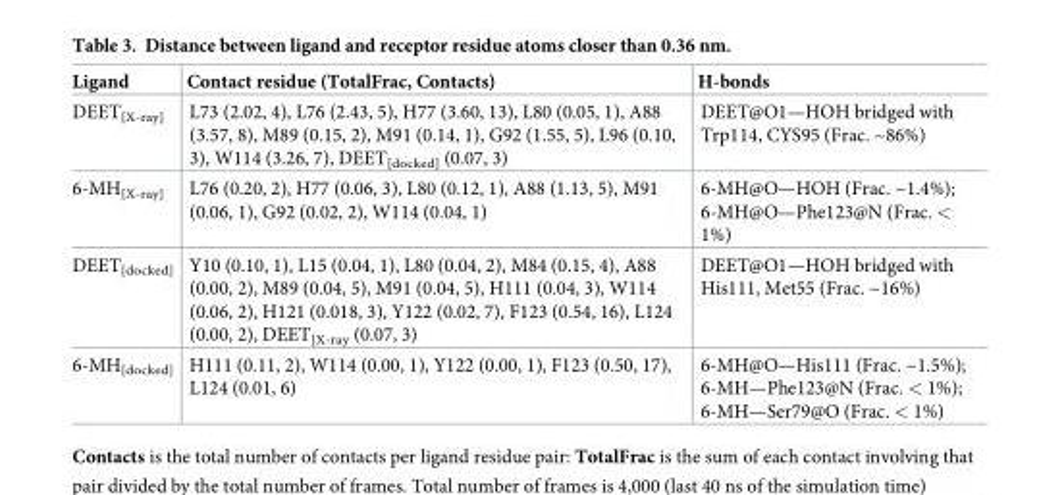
<table><thead><tr><td>Ligand</td><td>Contact residue (TotalFrac, Contacts)</td><td>H-bonds</td></tr></thead><tbody><tr><td>DEET<sub>[X-ray]</sub></td><td>L73 (2.02, 4), L76 (2.43, 5), H77 (3.60, 13), L80 (0.05, 1), A88 (3.57, 8), M89 (0.15, 2), M91 (0.14, 1), G92 (1.55, 5), L96 (0.10, 3), W114 (3.26, 7), DEET<sub>[docked]</sub> (0.07, 3)</td><td>DEET@O1—HOH bridged with Trp114, CYS95 (Frac. ~86%)</td></tr><tr><td>6-MH<sub>[X-ray]</sub></td><td>L76 (0.20, 2), H77 (0.06, 3), L80 (0.12, 1), A88 (1.13, 5), M91 (0.06, 1), G92 (0.02, 2), W114 (0.04, 1)</td><td>6-MH@O—HOH (Frac. ~1.4%); 6-MH@O—Phe123@N (Frac. &lt; 1%)</td></tr><tr><td>DEET<sub>[docked]</sub></td><td>Y10 (0.10, 1), L15 (0.04, 1), L80 (0.04, 2), M84 (0.15, 4), A88 (0.00, 2), M89 (0.04, 5), M91 (0.04, 5), H111 (0.04, 3), W114 (0.06, 2), H121 (0.018, 3), Y122 (0.02, 7), F123 (0.54, 16), L124 (0.00, 2), DEET<sub>[X-ray</sub> (0.07, 3)</td><td>DEET@O1—HOH bridged with His111, Met55 (Frac. ~16%)</td></tr><tr><td>6-MH<sub>[docked]</sub></td><td>H111 (0.11, 2), W114 (0.00, 1), Y122 (0.00, 1), F123 (0.50, 17), L124 (0.01, 6)</td><td>6-MH@O—His111 (Frac. ~1.5%); 6-MH—Phe123@N (Frac. &lt; 1%); 6-MH—Ser79@O (Frac. &lt; 1%)</td></tr></tbody></table>